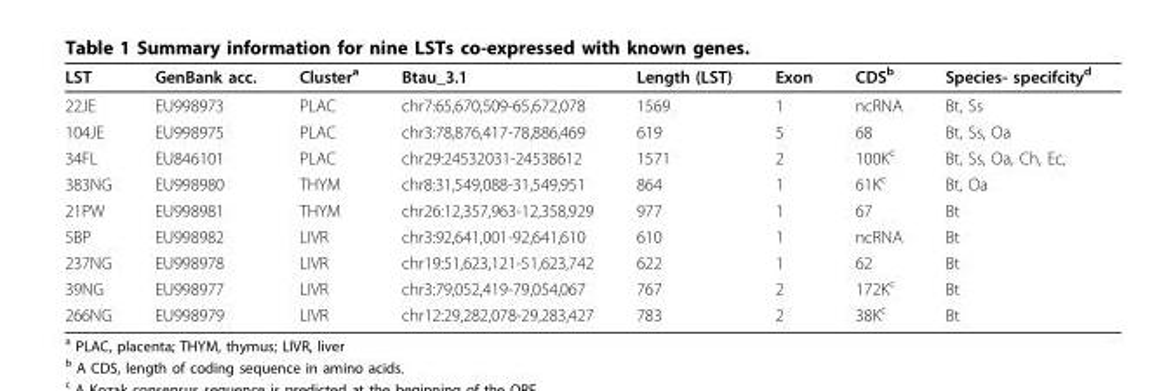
<table><thead><tr><td>LST</td><td>GenBank acc.</td><td>Cluster<sup>a</sup></td><td>Btau_3.1</td><td>Length (LST)</td><td>Exon</td><td>CDS<sup>b</sup></td><td>Species- specifcity<sup>d</sup></td></tr></thead><tbody><tr><td>22JE</td><td>EU998973</td><td>PLAC</td><td>chr7:65,670,509-65,672,078</td><td>1569</td><td>1</td><td>ncRNA</td><td>Bt, Ss</td></tr><tr><td>104JE</td><td>EU998975</td><td>PLAC</td><td>chr3:78,876,417-78,886,469</td><td>619</td><td>5</td><td>68</td><td>Bt, Ss, Oa</td></tr><tr><td>34FL</td><td>EU846101</td><td>PLAC</td><td>chr29:24532031-24538612</td><td>1571</td><td>2</td><td>100K<sup>c</sup></td><td>Bt, Ss, Oa, Ch, Ec,</td></tr><tr><td>383NG</td><td>EU998980</td><td>THYM</td><td>chr8:31,549,088-31,549,951</td><td>864</td><td>1</td><td>61K<sup>c</sup></td><td>Bt, Oa</td></tr><tr><td>21PW</td><td>EU998981</td><td>THYM</td><td>chr26:12,357,963-12,358,929</td><td>977</td><td>1</td><td>67</td><td>Bt</td></tr><tr><td>5BP</td><td>EU998982</td><td>LIVR</td><td>chr3:92,641,001-92,641,610</td><td>610</td><td>1</td><td>ncRNA</td><td>Bt</td></tr><tr><td>237NG</td><td>EU998978</td><td>LIVR</td><td>chr19:51,623,121-51,623,742</td><td>622</td><td>1</td><td>62</td><td>Bt</td></tr><tr><td>39NG</td><td>EU998977</td><td>LIVR</td><td>chr3:79,052,419-79,054,067</td><td>767</td><td>2</td><td>172K<sup>c</sup></td><td>Bt</td></tr><tr><td>266NG</td><td>EU998979</td><td>LIVR</td><td>chr12:29,282,078-29,283,427</td><td>783</td><td>2</td><td>38K<sup>c</sup></td><td>Bt</td></tr></tbody></table>